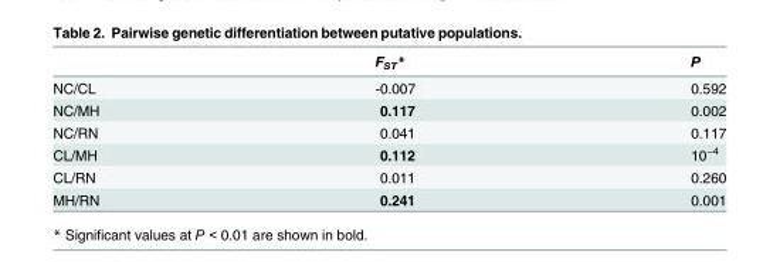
<table><thead><tr><td></td><td>F<sub>ST</sub>*</td><td>P</td></tr></thead><tbody><tr><td>NC/CL</td><td>-0.007</td><td>0.592</td></tr><tr><td>NC/MH</td><td>0.117</td><td>0.002</td></tr><tr><td>NC/RN</td><td>0.041</td><td>0.117</td></tr><tr><td>CL/MH</td><td>0.112</td><td>10<sup>−4</sup></td></tr><tr><td>CL/RN</td><td>0.011</td><td>0.260</td></tr><tr><td>MH/RN</td><td>0.241</td><td>0.001</td></tr></tbody></table>